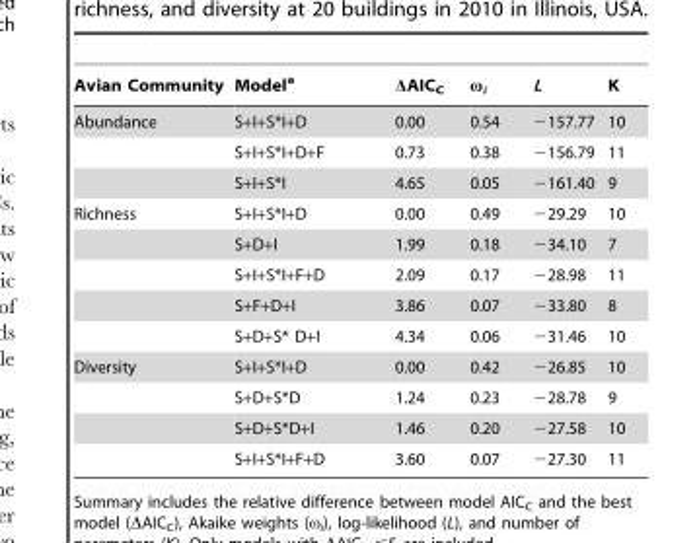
<table><thead><tr><td>Avian Community</td><td>Model<sup>a</sup></td><td>ΔAIC<sub>C</sub></td><td>ω<sub>i</sub></td><td>L</td><td>K</td></tr></thead><tbody><tr><td rowspan="3">Abundance</td><td>S+I+S*I+D</td><td>0.00</td><td>0.54</td><td>−157.77</td><td>10</td></tr><tr><td>S+I+S*I+D+F</td><td>0.73</td><td>0.38</td><td>−156.79</td><td>11</td></tr><tr><td>S+I+S*I</td><td>4.65</td><td>0.05</td><td>−161.40</td><td>9</td></tr><tr><td rowspan="5">Richness</td><td>S+I+S*I+D</td><td>0.00</td><td>0.49</td><td>−29.29</td><td>10</td></tr><tr><td>S+D+I</td><td>1.99</td><td>0.18</td><td>−34.10</td><td>7</td></tr><tr><td>S+I+S*I+F+D</td><td>2.09</td><td>0.17</td><td>−28.98</td><td>11</td></tr><tr><td>S+F+D+I</td><td>3.86</td><td>0.07</td><td>−33.80</td><td>8</td></tr><tr><td>S+D+S* D+I</td><td>4.34</td><td>0.06</td><td>−31.46</td><td>10</td></tr><tr><td rowspan="4">Diversity</td><td>S+I+S*I+D</td><td>0.00</td><td>0.42</td><td>−26.85</td><td>10</td></tr><tr><td>S+D+S*D</td><td>1.24</td><td>0.23</td><td>−28.78</td><td>9</td></tr><tr><td>S+D+S*D+I</td><td>1.46</td><td>0.20</td><td>−27.58</td><td>10</td></tr><tr><td>S+I+S*I+F+D</td><td>3.60</td><td>0.07</td><td>−27.30</td><td>11</td></tr></tbody></table>